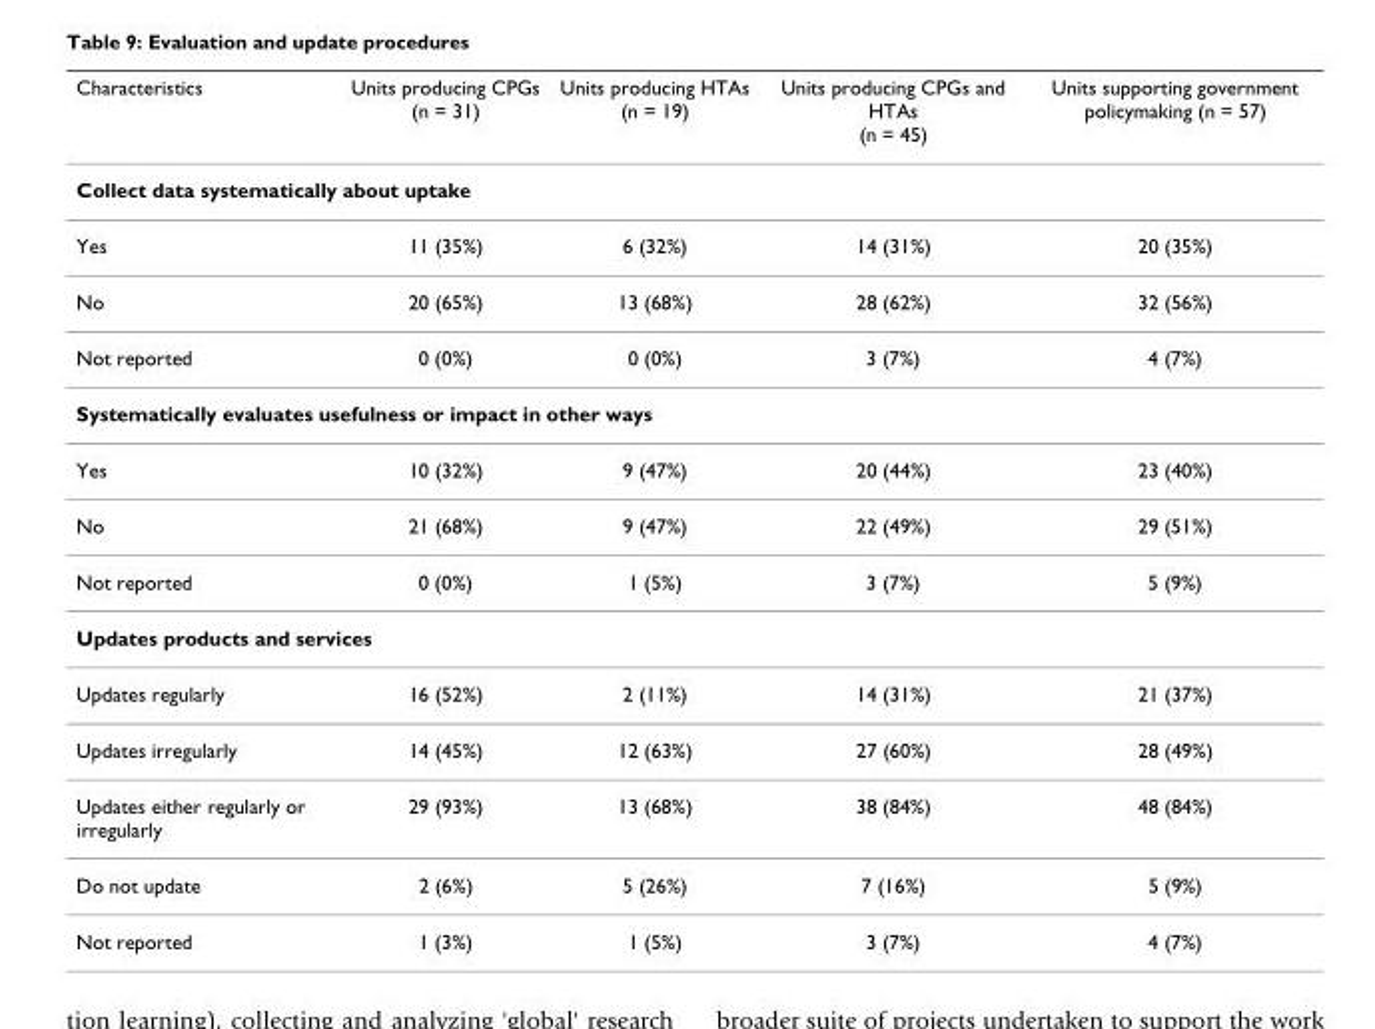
<table><thead><tr><td>Characteristics</td><td>Units producing CPGs (n = 31)</td><td>Units producing HTAs (n = 19)</td><td>Units producing CPGs and HTAs (n = 45)</td><td>Units supporting government policymaking (n = 57)</td></tr></thead><tbody><tr><td colspan="5">Collect data systematically about uptake</td></tr><tr><td>Yes</td><td>11 (35%)</td><td>6 (32%)</td><td>14 (31%)</td><td>20 (35%)</td></tr><tr><td>No</td><td>20 (65%)</td><td>13 (68%)</td><td>28 (62%)</td><td>32 (56%)</td></tr><tr><td>Not reported</td><td>0 (0%)</td><td>0 (0%)</td><td>3 (7%)</td><td>4 (7%)</td></tr><tr><td colspan="5">Systematically evaluates usefulness or impact in other ways</td></tr><tr><td>Yes</td><td>10 (32%)</td><td>9 (47%)</td><td>20 (44%)</td><td>23 (40%)</td></tr><tr><td>No</td><td>21 (68%)</td><td>9 (47%)</td><td>22 (49%)</td><td>29 (51%)</td></tr><tr><td>Not reported</td><td>0 (0%)</td><td>1 (5%)</td><td>3 (7%)</td><td>5 (9%)</td></tr><tr><td colspan="5">Updates products and services</td></tr><tr><td>Updates regularly</td><td>16 (52%)</td><td>2 (11%)</td><td>14 (31%)</td><td>21 (37%)</td></tr><tr><td>Updates irregularly</td><td>14 (45%)</td><td>12 (63%)</td><td>27 (60%)</td><td>28 (49%)</td></tr><tr><td>Updates either regularly or irregularly</td><td>29 (93%)</td><td>13 (68%)</td><td>38 (84%)</td><td>48 (84%)</td></tr><tr><td>Do not update</td><td>2 (6%)</td><td>5 (26%)</td><td>7 (16%)</td><td>5 (9%)</td></tr><tr><td>Not reported</td><td>1 (3%)</td><td>1 (5%)</td><td>3 (7%)</td><td>4 (7%)</td></tr></tbody></table>